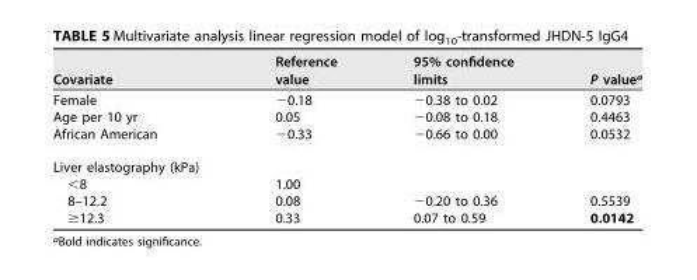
<table><thead><tr><td>Covariate</td><td>Reference value</td><td>95% confidence limits</td><td>P value<sup>a</sup></td></tr></thead><tbody><tr><td>Female</td><td>−0.18</td><td>−0.38 to 0.02</td><td>0.0793</td></tr><tr><td>Age per 10 yr</td><td>0.05</td><td>−0.08 to 0.18</td><td>0.4463</td></tr><tr><td>African American</td><td>−0.33</td><td>−0.66 to 0.00</td><td>0.0532</td></tr><tr><td colspan="4">Liver elastography (kPa)</td></tr><tr><td>&lt;8</td><td>1.00</td><td></td><td></td></tr><tr><td>8–12.2</td><td>0.08</td><td>−0.20 to 0.36</td><td>0.5539</td></tr><tr><td>≥12.3</td><td>0.33</td><td>0.07 to 0.59</td><td>0.0142</td></tr></tbody></table>